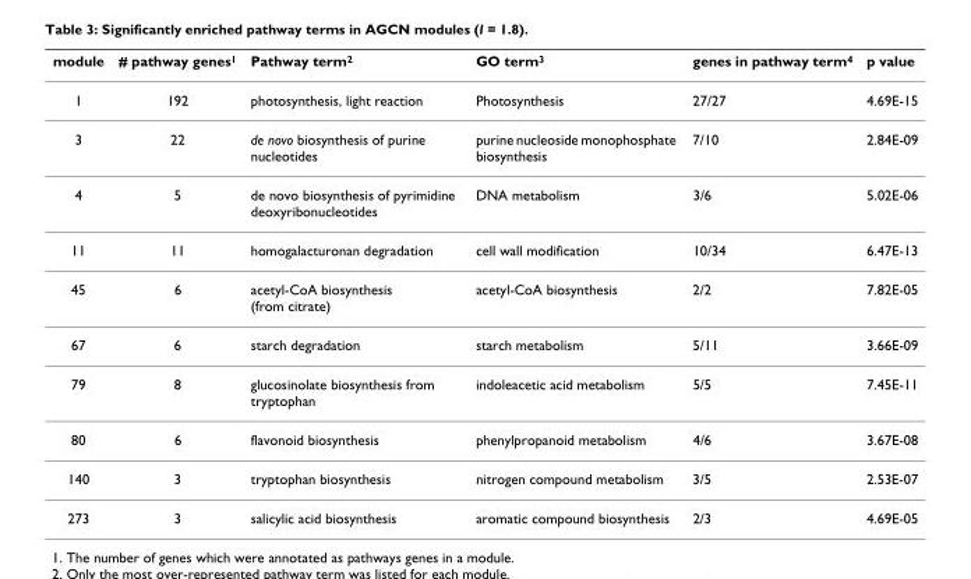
<table><thead><tr><td>module</td><td># pathway genes<sup>1</sup></td><td>Pathway term<sup>2</sup></td><td>GO term<sup>3</sup></td><td>genes in pathway term<sup>4</sup></td><td>p value</td></tr></thead><tbody><tr><td>1</td><td>192</td><td>photosynthesis, light reaction</td><td>Photosynthesis</td><td>27/27</td><td>4.69E-15</td></tr><tr><td>3</td><td>22</td><td>de novo biosynthesis of purine nucleotides</td><td>purine nucleoside monophosphate biosynthesis</td><td>7/10</td><td>2.84E-09</td></tr><tr><td>4</td><td>5</td><td>de novo biosynthesis of pyrimidine deoxyribonucleotides</td><td>DNA metabolism</td><td>3/6</td><td>5.02E-06</td></tr><tr><td>11</td><td>11</td><td>homogalacturonan degradation</td><td>cell wall modification</td><td>10/34</td><td>6.47E-13</td></tr><tr><td>45</td><td>6</td><td>acetyl-CoA biosynthesis (from citrate)</td><td>acetyl-CoA biosynthesis</td><td>2/2</td><td>7.82E-05</td></tr><tr><td>67</td><td>6</td><td>starch degradation</td><td>starch metabolism</td><td>5/11</td><td>3.66E-09</td></tr><tr><td>79</td><td>8</td><td>glucosinolate biosynthesis from tryptophan</td><td>indoleacetic acid metabolism</td><td>5/5</td><td>7.45E-11</td></tr><tr><td>80</td><td>6</td><td>flavonoid biosynthesis</td><td>phenylpropanoid metabolism</td><td>4/6</td><td>3.67E-08</td></tr><tr><td>140</td><td>3</td><td>tryptophan biosynthesis</td><td>nitrogen compound metabolism</td><td>3/5</td><td>2.53E-07</td></tr><tr><td>273</td><td>3</td><td>salicylic acid biosynthesis</td><td>aromatic compound biosynthesis</td><td>2/3</td><td>4.69E-05</td></tr></tbody></table>